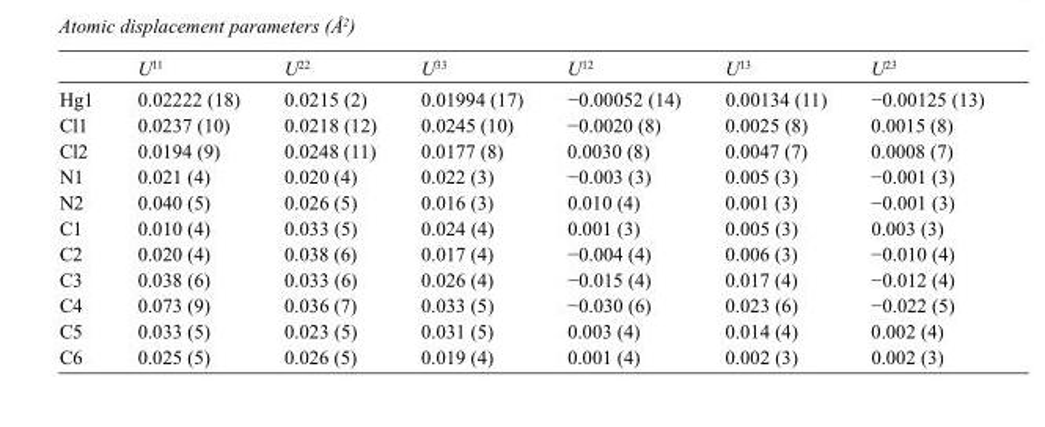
<table><thead><tr><td></td><td>U<sup>11</sup></td><td>U<sup>22</sup></td><td>U<sup>33</sup></td><td>U<sup>12</sup></td><td>U<sup>13</sup></td><td>U<sup>23</sup></td></tr></thead><tbody><tr><td>Hg1</td><td>0.02222 (18)</td><td>0.0215 (2)</td><td>0.01994 (17)</td><td>−0.00052 (14)</td><td>0.00134 (11)</td><td>−0.00125 (13)</td></tr><tr><td>Cl1</td><td>0.0237 (10)</td><td>0.0218 (12)</td><td>0.0245 (10)</td><td>−0.0020 (8)</td><td>0.0025 (8)</td><td>0.0015 (8)</td></tr><tr><td>Cl2</td><td>0.0194 (9)</td><td>0.0248 (11)</td><td>0.0177 (8)</td><td>0.0030 (8)</td><td>0.0047 (7)</td><td>0.0008 (7)</td></tr><tr><td>N1</td><td>0.021 (4)</td><td>0.020 (4)</td><td>0.022 (3)</td><td>−0.003 (3)</td><td>0.005 (3)</td><td>−0.001 (3)</td></tr><tr><td>N2</td><td>0.040 (5)</td><td>0.026 (5)</td><td>0.016 (3)</td><td>0.010 (4)</td><td>0.001 (3)</td><td>−0.001 (3)</td></tr><tr><td>C1</td><td>0.010 (4)</td><td>0.033 (5)</td><td>0.024 (4)</td><td>0.001 (3)</td><td>0.005 (3)</td><td>0.003 (3)</td></tr><tr><td>C2</td><td>0.020 (4)</td><td>0.038 (6)</td><td>0.017 (4)</td><td>−0.004 (4)</td><td>0.006 (3)</td><td>−0.010 (4)</td></tr><tr><td>C3</td><td>0.038 (6)</td><td>0.033 (6)</td><td>0.026 (4)</td><td>−0.015 (4)</td><td>0.017 (4)</td><td>−0.012 (4)</td></tr><tr><td>C4</td><td>0.073 (9)</td><td>0.036 (7)</td><td>0.033 (5)</td><td>−0.030 (6)</td><td>0.023 (6)</td><td>−0.022 (5)</td></tr><tr><td>C5</td><td>0.033 (5)</td><td>0.023 (5)</td><td>0.031 (5)</td><td>0.003 (4)</td><td>0.014 (4)</td><td>0.002 (4)</td></tr><tr><td>C6</td><td>0.025 (5)</td><td>0.026 (5)</td><td>0.019 (4)</td><td>0.001 (4)</td><td>0.002 (3)</td><td>0.002 (3)</td></tr></tbody></table>